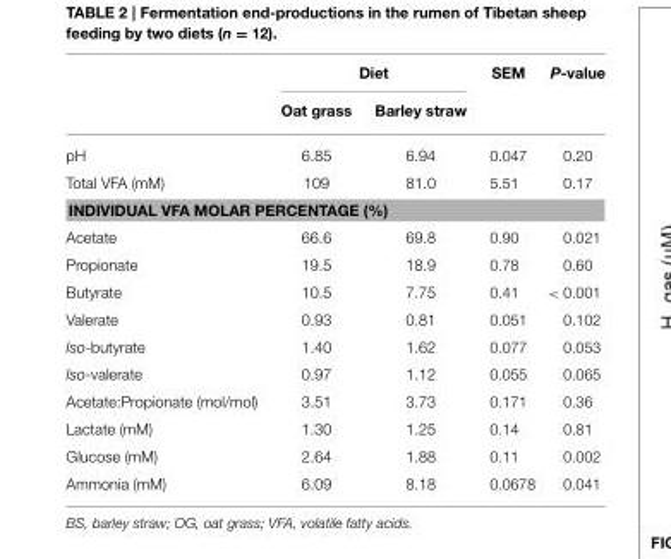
<table><thead><tr><td rowspan="2"></td><td colspan="2">Diet</td><td rowspan="2">SEM</td><td rowspan="2">P-value</td></tr><tr><td>Oat grass</td><td>Barley straw</td></tr></thead><tbody><tr><td>pH</td><td>6.85</td><td>6.94</td><td>0.047</td><td>0.20</td></tr><tr><td>Total VFA (mM)</td><td>109</td><td>81.0</td><td>5.51</td><td>0.17</td></tr><tr><td colspan="5">INDIVIDUAL VFA MOLAR PERCENTAGE (%)</td></tr><tr><td>Acetate</td><td>66.6</td><td>69.8</td><td>0.90</td><td>0.021</td></tr><tr><td>Propionate</td><td>19.5</td><td>18.9</td><td>0.78</td><td>0.60</td></tr><tr><td>Butyrate</td><td>10.5</td><td>7.75</td><td>0.41</td><td>&lt; 0.001</td></tr><tr><td>Valerate</td><td>0.93</td><td>0.81</td><td>0.051</td><td>0.102</td></tr><tr><td>Iso-butyrate</td><td>1.40</td><td>1.62</td><td>0.077</td><td>0.053</td></tr><tr><td>Iso-valerate</td><td>0.97</td><td>1.12</td><td>0.055</td><td>0.065</td></tr><tr><td>Acetate:Propionate (mol/mol)</td><td>3.51</td><td>3.73</td><td>0.171</td><td>0.36</td></tr><tr><td>Lactate (mM)</td><td>1.30</td><td>1.25</td><td>0.14</td><td>0.81</td></tr><tr><td>Glucose (mM)</td><td>2.64</td><td>1.88</td><td>0.11</td><td>0.002</td></tr><tr><td>Ammonia (mM)</td><td>6.09</td><td>8.18</td><td>0.0678</td><td>0.041</td></tr></tbody></table>